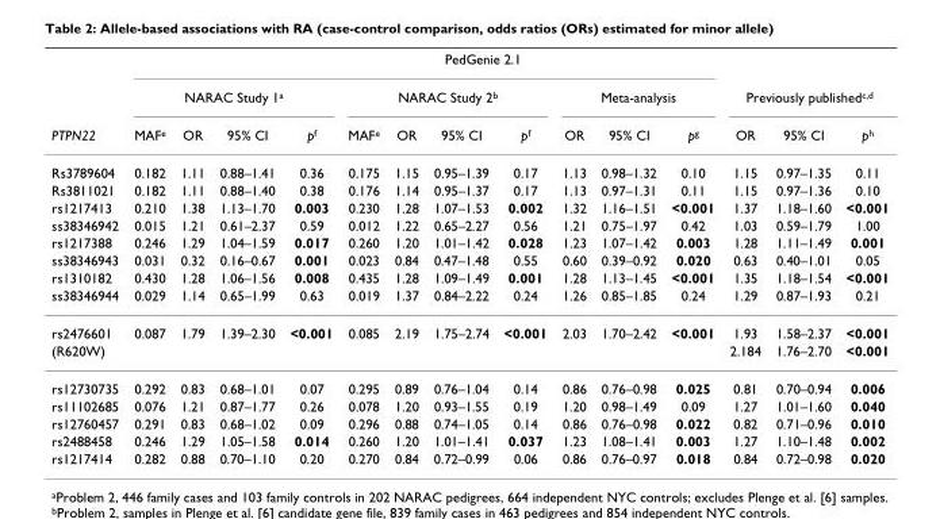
<table><thead><tr><td rowspan="3">PTPN22</td><td colspan="13">PedGenie 2.1</td><td></td></tr><tr><td colspan="4">NARAC Study 1<sup>a</sup></td><td colspan="4">NARAC Study 2<sup>b</sup></td><td colspan="3">Meta-analysis</td><td colspan="3">Previously published<sup>c,d</sup></td></tr><tr><td>MAF<sup>e</sup></td><td>OR</td><td>95% CI</td><td>p<sup>f</sup></td><td>MAF<sup>e</sup></td><td>OR</td><td>95% CI</td><td>p<sup>f</sup></td><td>OR</td><td>95% CI</td><td>p<sup>g</sup></td><td>OR</td><td>95% CI</td><td>p<sup>h</sup></td></tr></thead><tbody><tr><td>Rs3789604</td><td>0.182</td><td>1.11</td><td>0.88–1.41</td><td>0.36</td><td>0.175</td><td>1.15</td><td>0.95–1.39</td><td>0.17</td><td>1.13</td><td>0.98–1.32</td><td>0.10</td><td>1.15</td><td>0.97–1.35</td><td>0.11</td></tr><tr><td>Rs3811021</td><td>0.182</td><td>1.11</td><td>0.88–1.40</td><td>0.38</td><td>0.176</td><td>1.14</td><td>0.95–1.37</td><td>0.17</td><td>1.13</td><td>0.97–1.31</td><td>0.11</td><td>1.15</td><td>0.97–1.36</td><td>0.10</td></tr><tr><td>rs1217413</td><td>0.210</td><td>1.38</td><td>1.13–1.70</td><td>0.003</td><td>0.230</td><td>1.28</td><td>1.07–1.53</td><td>0.002</td><td>1.32</td><td>1.16–1.51</td><td>&lt;0.001</td><td>1.37</td><td>1.18–1.60</td><td>&lt;0.001</td></tr><tr><td>ss38346942</td><td>0.015</td><td>1.21</td><td>0.61–2.37</td><td>0.59</td><td>0.012</td><td>1.22</td><td>0.65–2.27</td><td>0.56</td><td>1.21</td><td>0.75–1.97</td><td>0.42</td><td>1.03</td><td>0.59–1.79</td><td>1.00</td></tr><tr><td>rs1217388</td><td>0.246</td><td>1.29</td><td>1.04–1.59</td><td>0.017</td><td>0.260</td><td>1.20</td><td>1.01–1.42</td><td>0.028</td><td>1.23</td><td>1.07–1.42</td><td>0.003</td><td>1.28</td><td>1.11–1.49</td><td>0.001</td></tr><tr><td>ss38346943</td><td>0.031</td><td>0.32</td><td>0.16–0.67</td><td>0.001</td><td>0.023</td><td>0.84</td><td>0.47–1.48</td><td>0.55</td><td>0.60</td><td>0.39–0.92</td><td>0.020</td><td>0.63</td><td>0.40–1.01</td><td>0.05</td></tr><tr><td>rs1310182</td><td>0.430</td><td>1.28</td><td>1.06–1.56</td><td>0.008</td><td>0.435</td><td>1.28</td><td>1.09–1.49</td><td>0.001</td><td>1.28</td><td>1.13–1.45</td><td>&lt;0.001</td><td>1.35</td><td>1.18–1.54</td><td>&lt;0.001</td></tr><tr><td>ss38346944</td><td>0.029</td><td>1.14</td><td>0.65–1.99</td><td>0.63</td><td>0.019</td><td>1.37</td><td>0.84–2.22</td><td>0.24</td><td>1.26</td><td>0.85–1.85</td><td>0.24</td><td>1.29</td><td>0.87–1.93</td><td>0.21</td></tr><tr><td>rs2476601</td><td>0.087</td><td>1.79</td><td>1.39–2.30</td><td>&lt;0.001</td><td>0.085</td><td>2.19</td><td>1.75–2.74</td><td>&lt;0.001</td><td>2.03</td><td>1.70–2.42</td><td>&lt;0.001</td><td>1.93</td><td>1.58–2.37</td><td>&lt;0.001</td></tr><tr><td>(R620W)</td><td></td><td></td><td></td><td></td><td></td><td></td><td></td><td></td><td></td><td></td><td></td><td>2.184</td><td>1.76–2.70</td><td>&lt;0.001</td></tr><tr><td>rs12730735</td><td>0.292</td><td>0.83</td><td>0.68–1.01</td><td>0.07</td><td>0.295</td><td>0.89</td><td>0.76–1.04</td><td>0.14</td><td>0.86</td><td>0.76–0.98</td><td>0.025</td><td>0.81</td><td>0.70–0.94</td><td>0.006</td></tr><tr><td>rs11102685</td><td>0.076</td><td>1.21</td><td>0.87–1.77</td><td>0.26</td><td>0.078</td><td>1.20</td><td>0.93–1.55</td><td>0.19</td><td>1.20</td><td>0.98–1.49</td><td>0.09</td><td>1.27</td><td>1.01–1.60</td><td>0.040</td></tr><tr><td>rs12760457</td><td>0.291</td><td>0.83</td><td>0.68–1.02</td><td>0.09</td><td>0.296</td><td>0.88</td><td>0.74–1.05</td><td>0.14</td><td>0.86</td><td>0.76–0.98</td><td>0.022</td><td>0.82</td><td>0.71–0.96</td><td>0.010</td></tr><tr><td>rs2488458</td><td>0.246</td><td>1.29</td><td>1.05–1.58</td><td>0.014</td><td>0.260</td><td>1.20</td><td>1.01–1.41</td><td>0.037</td><td>1.23</td><td>1.08–1.41</td><td>0.003</td><td>1.27</td><td>1.10–1.48</td><td>0.002</td></tr><tr><td>rs1217414</td><td>0.282</td><td>0.88</td><td>0.70–1.10</td><td>0.20</td><td>0.270</td><td>0.84</td><td>0.72–0.99</td><td>0.06</td><td>0.86</td><td>0.76–0.97</td><td>0.018</td><td>0.84</td><td>0.72–0.98</td><td>0.020</td></tr></tbody></table>